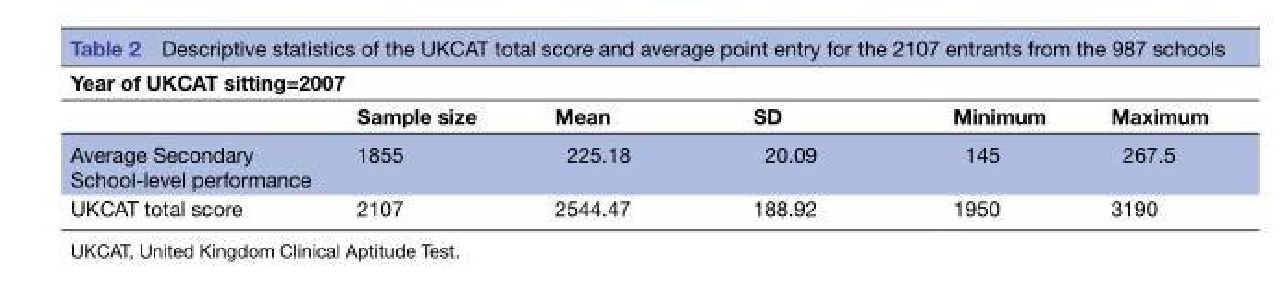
<table><thead><tr><td colspan="6">Year of UKCAT sitting=2007</td></tr><tr><td></td><td>Sample size</td><td>Mean</td><td>SD</td><td>Minimum</td><td>Maximum</td></tr></thead><tbody><tr><td>Average Secondary School-level performance</td><td>1855</td><td>225.18</td><td>20.09</td><td>145</td><td>267.5</td></tr><tr><td>UKCAT total score</td><td>2107</td><td>2544.47</td><td>188.92</td><td>1950</td><td>3190</td></tr></tbody></table>